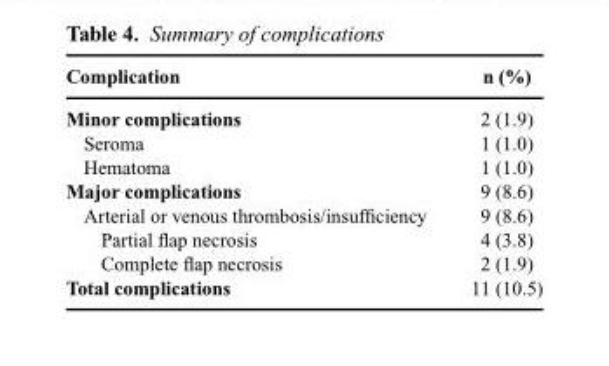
<table><thead><tr><td>Complication</td><td>n (%)</td></tr></thead><tbody><tr><td>Minor complications</td><td>2 (1.9)</td></tr><tr><td>Seroma</td><td>1 (1.0)</td></tr><tr><td>Hematoma</td><td>1 (1.0)</td></tr><tr><td>Major complications</td><td>9 (8.6)</td></tr><tr><td>Arterial or venous thrombosis/insufficiency</td><td>9 (8.6)</td></tr><tr><td>Partial flap necrosis</td><td>4 (3.8)</td></tr><tr><td>Complete flap necrosis</td><td>2 (1.9)</td></tr><tr><td>Total complications</td><td>11 (10.5)</td></tr></tbody></table>